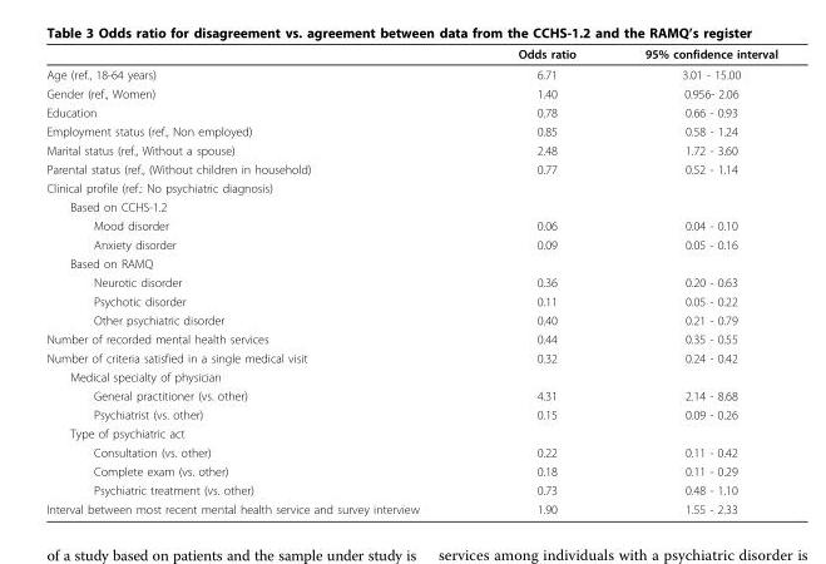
<table><thead><tr><td></td><td>Odds ratio</td><td>95% confidence interval</td></tr></thead><tbody><tr><td>Age (ref., 18-64 years)</td><td>6.71</td><td>3.01 - 15.00</td></tr><tr><td>Gender (ref., Women)</td><td>1.40</td><td>0.956- 2.06</td></tr><tr><td>Education</td><td>0.78</td><td>0.66 - 0.93</td></tr><tr><td>Employment status (ref., Non employed)</td><td>0.85</td><td>0.58 - 1.24</td></tr><tr><td>Marital status (ref., Without a spouse)</td><td>2.48</td><td>1.72 - 3.60</td></tr><tr><td>Parental status (ref., (Without children in household)</td><td>0.77</td><td>0.52 - 1.14</td></tr><tr><td colspan="3">Clinical profile (ref.: No psychiatric diagnosis)</td></tr><tr><td colspan="3">Based on CCHS-1.2</td></tr><tr><td>Mood disorder</td><td>0.06</td><td>0.04 - 0.10</td></tr><tr><td>Anxiety disorder</td><td>0.09</td><td>0.05 - 0.16</td></tr><tr><td colspan="3">Based on RAMQ</td></tr><tr><td>Neurotic disorder</td><td>0.36</td><td>0.20 - 0.63</td></tr><tr><td>Psychotic disorder</td><td>0.11</td><td>0.05 - 0.22</td></tr><tr><td>Other psychiatric disorder</td><td>0.40</td><td>0.21 - 0.79</td></tr><tr><td>Number of recorded mental health services</td><td>0.44</td><td>0.35 - 0.55</td></tr><tr><td>Number of criteria satisfied in a single medical visit</td><td>0.32</td><td>0.24 - 0.42</td></tr><tr><td colspan="3">Medical specialty of physician</td></tr><tr><td>General practitioner (vs. other)</td><td>4.31</td><td>2.14 - 8.68</td></tr><tr><td>Psychiatrist (vs. other)</td><td>0.15</td><td>0.09 - 0.26</td></tr><tr><td colspan="3">Type of psychiatric act</td></tr><tr><td>Consultation (vs. other)</td><td>0.22</td><td>0.11 - 0.42</td></tr><tr><td>Complete exam (vs. other)</td><td>0.18</td><td>0.11 - 0.29</td></tr><tr><td>Psychiatric treatment (vs. other)</td><td>0.73</td><td>0.48 - 1.10</td></tr><tr><td>Interval between most recent mental health service and survey interview</td><td>1.90</td><td>1.55 - 2.33</td></tr></tbody></table>